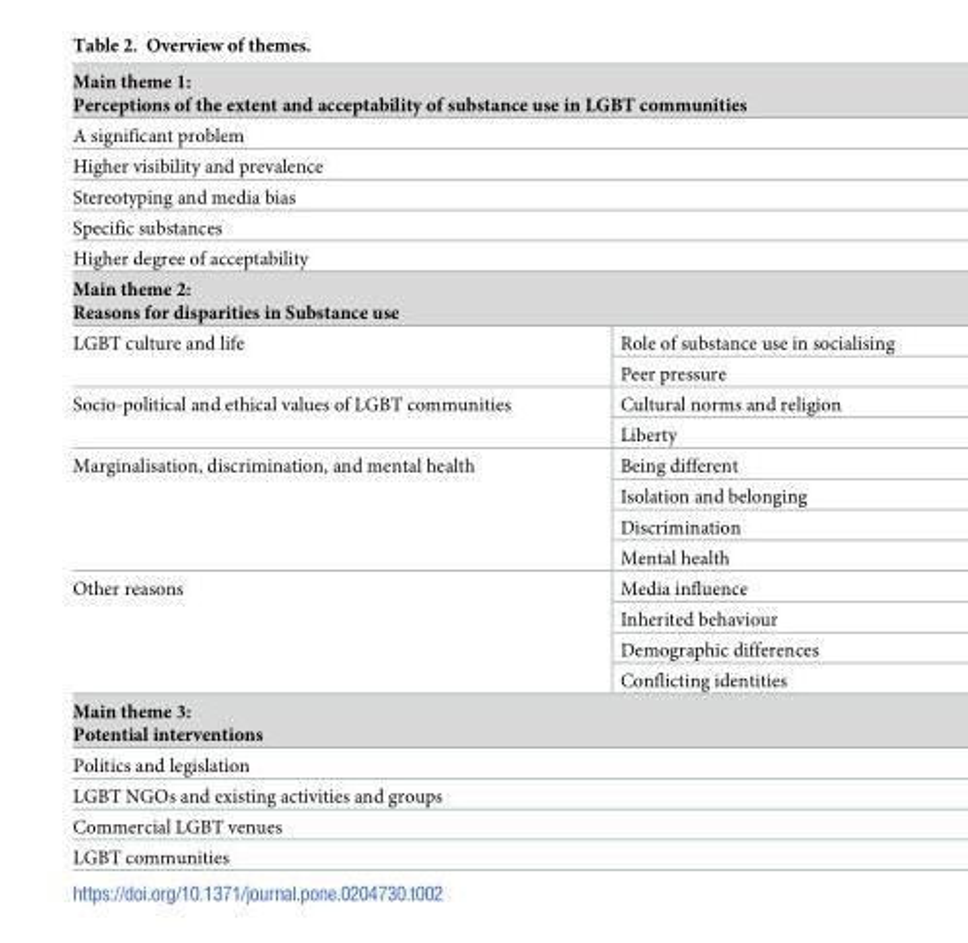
<table><tbody><tr><td colspan="2">Main theme 1: Perceptions of the extent and acceptability of substance use in LGBT communities</td></tr><tr><td colspan="2">A significant problem</td></tr><tr><td colspan="2">Higher visibility and prevalence</td></tr><tr><td colspan="2">Stereotyping and media bias</td></tr><tr><td colspan="2">Specific substances</td></tr><tr><td colspan="2">Higher degree of acceptability</td></tr><tr><td colspan="2">Main theme 2: Reasons for disparities in Substance use</td></tr><tr><td rowspan="2">LGBT culture and life</td><td>Role of substance use in socialising</td></tr><tr><td>Peer pressure</td></tr><tr><td rowspan="2">Socio-political and ethical values of LGBT communities</td><td>Cultural norms and religion</td></tr><tr><td>Liberty</td></tr><tr><td rowspan="4">Marginalisation, discrimination, and mental health</td><td>Being different</td></tr><tr><td>Isolation and belonging</td></tr><tr><td>Discrimination</td></tr><tr><td>Mental health</td></tr><tr><td rowspan="4">Other reasons</td><td>Media influence</td></tr><tr><td>Inherited behaviour</td></tr><tr><td>Demographic differences</td></tr><tr><td>Conflicting identities</td></tr><tr><td colspan="2">Main theme 3: Potential interventions</td></tr><tr><td colspan="2">Politics and legislation</td></tr><tr><td colspan="2">LGBT NGOs and existing activities and groups</td></tr><tr><td colspan="2">Commercial LGBT venues</td></tr><tr><td colspan="2">LGBT communities</td></tr></tbody></table>